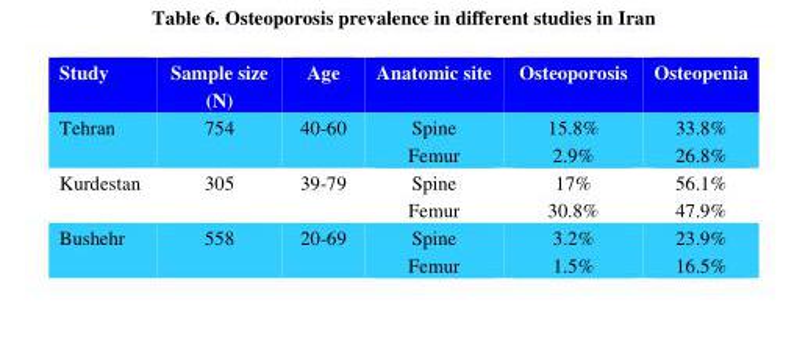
<table><thead><tr><td>Study</td><td>Sample size (N)</td><td>Age</td><td>Anatomic site</td><td>Osteoporosis</td><td>Osteopenia</td></tr></thead><tbody><tr><td>Tehran</td><td>754</td><td>40-60</td><td>Spine Femur</td><td>15.8% 2.9%</td><td>33.8% 26.8%</td></tr><tr><td>Kurdestan</td><td>305</td><td>39-79</td><td>Spine Femur</td><td>17% 30.8%</td><td>56.1% 47.9%</td></tr><tr><td>Bushehr</td><td>558</td><td>20-69</td><td>Spine Femur</td><td>3.2% 1.5%</td><td>23.9% 16.5%</td></tr></tbody></table>